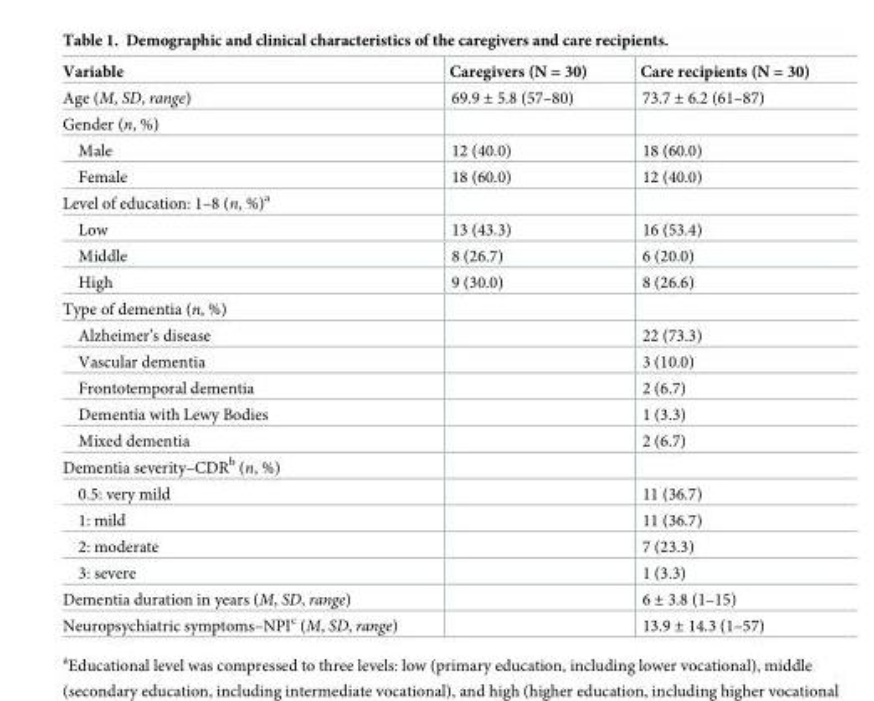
<table><thead><tr><td>Variable</td><td>Caregivers (N = 30)</td><td>Care recipients (N = 30)</td></tr></thead><tbody><tr><td>Age (M, SD, range)</td><td>69.9 ± 5.8 (57–80)</td><td>73.7 ± 6.2 (61–87)</td></tr><tr><td colspan="3">Gender (n, %)</td></tr><tr><td>Male</td><td>12 (40.0)</td><td>18 (60.0)</td></tr><tr><td>Female</td><td>18 (60.0)</td><td>12 (40.0)</td></tr><tr><td colspan="3">Level of education: 1–8 (n, %)<sup>a</sup></td></tr><tr><td>Low</td><td>13 (43.3)</td><td>16 (53.4)</td></tr><tr><td>Middle</td><td>8 (26.7)</td><td>6 (20.0)</td></tr><tr><td>High</td><td>9 (30.0)</td><td>8 (26.6)</td></tr><tr><td colspan="3">Type of dementia (n, %)</td></tr><tr><td>Alzheimer’s disease</td><td></td><td>22 (73.3)</td></tr><tr><td>Vascular dementia</td><td></td><td>3 (10.0)</td></tr><tr><td>Frontotemporal dementia</td><td></td><td>2 (6.7)</td></tr><tr><td>Dementia with Lewy Bodies</td><td></td><td>1 (3.3)</td></tr><tr><td>Mixed dementia</td><td></td><td>2 (6.7)</td></tr><tr><td colspan="3">Dementia severity–CDR<sup>b</sup> (n, %)</td></tr><tr><td>0.5: very mild</td><td></td><td>11 (36.7)</td></tr><tr><td>1: mild</td><td></td><td>11 (36.7)</td></tr><tr><td>2: moderate</td><td></td><td>7 (23.3)</td></tr><tr><td>3: severe</td><td></td><td>1 (3.3)</td></tr><tr><td>Dementia duration in years (M, SD, range)</td><td></td><td>6 ± 3.8 (1–15)</td></tr><tr><td>Neuropsychiatric symptoms–NPI<sup>c</sup> (M, SD, range)</td><td></td><td>13.9 ± 14.3 (1–57)</td></tr></tbody></table>